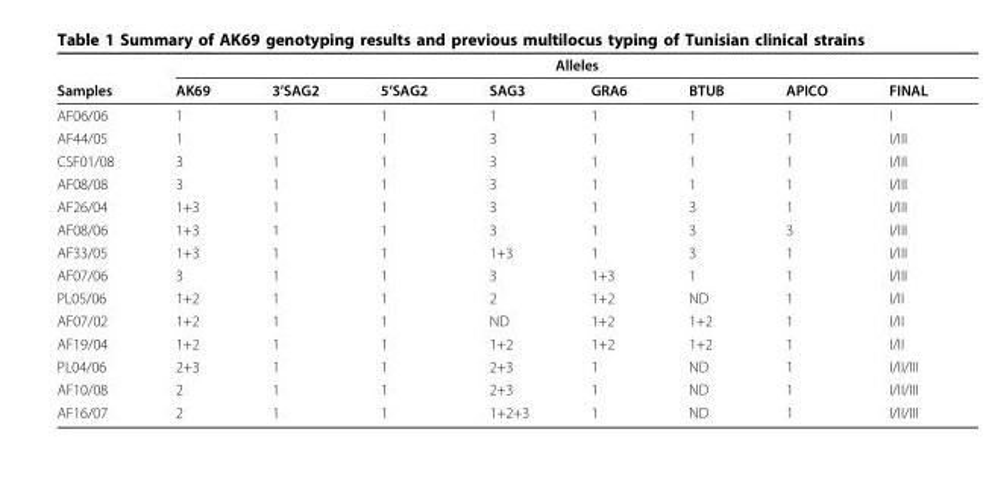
<table><thead><tr><td rowspan="2">Samples</td><td colspan="8">Alleles</td></tr><tr><td>AK69</td><td>3’SAG2</td><td>5’SAG2</td><td>SAG3</td><td>GRA6</td><td>BTUB</td><td>APICO</td><td>FINAL</td></tr></thead><tbody><tr><td>AF06/06</td><td>1</td><td>1</td><td>1</td><td>1</td><td>1</td><td>1</td><td>1</td><td>I</td></tr><tr><td>AF44/05</td><td>1</td><td>1</td><td>1</td><td>3</td><td>1</td><td>1</td><td>1</td><td>I/III</td></tr><tr><td>CSF01/08</td><td>3</td><td>1</td><td>1</td><td>3</td><td>1</td><td>1</td><td>1</td><td>I/III</td></tr><tr><td>AF08/08</td><td>3</td><td>1</td><td>1</td><td>3</td><td>1</td><td>1</td><td>1</td><td>I/III</td></tr><tr><td>AF26/04</td><td>1+3</td><td>1</td><td>1</td><td>3</td><td>1</td><td>3</td><td>1</td><td>I/III</td></tr><tr><td>AF08/06</td><td>1+3</td><td>1</td><td>1</td><td>3</td><td>1</td><td>3</td><td>3</td><td>I/III</td></tr><tr><td>AF33/05</td><td>1+3</td><td>1</td><td>1</td><td>1+3</td><td>1</td><td>3</td><td>1</td><td>I/III</td></tr><tr><td>AF07/06</td><td>3</td><td>1</td><td>1</td><td>3</td><td>1+3</td><td>1</td><td>1</td><td>I/III</td></tr><tr><td>PL05/06</td><td>1+2</td><td>1</td><td>1</td><td>2</td><td>1+2</td><td>ND</td><td>1</td><td>I/II</td></tr><tr><td>AF07/02</td><td>1+2</td><td>1</td><td>1</td><td>ND</td><td>1+2</td><td>1+2</td><td>1</td><td>I/II</td></tr><tr><td>AF19/04</td><td>1+2</td><td>1</td><td>1</td><td>1+2</td><td>1+2</td><td>1+2</td><td>1</td><td>I/II</td></tr><tr><td>PL04/06</td><td>2+3</td><td>1</td><td>1</td><td>2+3</td><td>1</td><td>ND</td><td>1</td><td>I/II/III</td></tr><tr><td>AF10/08</td><td>2</td><td>1</td><td>1</td><td>2+3</td><td>1</td><td>ND</td><td>1</td><td>I/II/III</td></tr><tr><td>AF16/07</td><td>2</td><td>1</td><td>1</td><td>1+2+3</td><td>1</td><td>ND</td><td>1</td><td>I/II/III</td></tr></tbody></table>